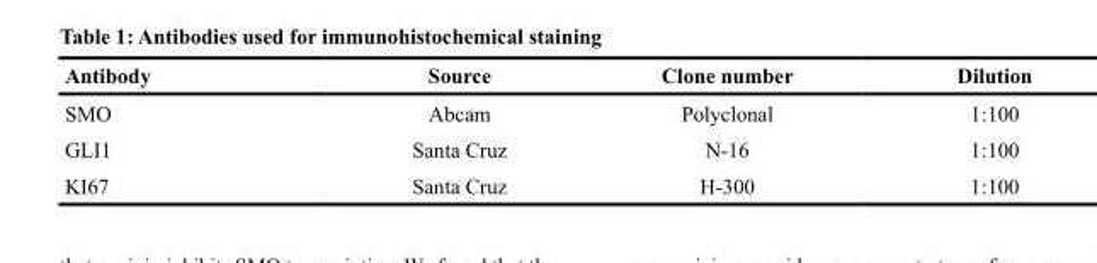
<table><thead><tr><td>Antibody</td><td>Source</td><td>Clone number</td><td>Dilution</td></tr></thead><tbody><tr><td>SMO</td><td>Abcam</td><td>Polyclonal</td><td>1:100</td></tr><tr><td>GLI1</td><td>Santa Cruz</td><td>N-16</td><td>1:100</td></tr><tr><td>KI67</td><td>Santa Cruz</td><td>H-300</td><td>1:100</td></tr></tbody></table>